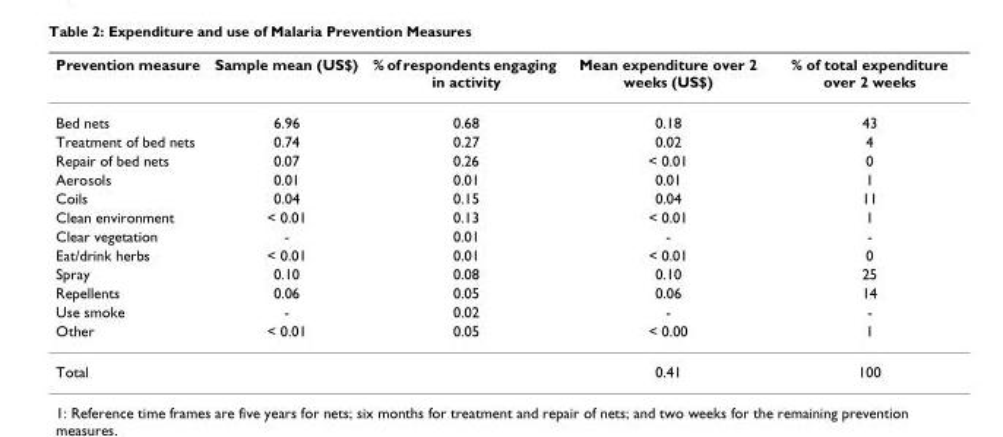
<table><thead><tr><td>Prevention measure</td><td>Sample mean (US$)</td><td>% of respondents engaging in activity</td><td>Mean expenditure over 2 weeks (US$)</td><td>% of total expenditure over 2 weeks</td></tr></thead><tbody><tr><td>Bed nets</td><td>6.96</td><td>0.68</td><td>0.18</td><td>43</td></tr><tr><td>Treatment of bed nets</td><td>0.74</td><td>0.27</td><td>0.02</td><td>4</td></tr><tr><td>Repair of bed nets</td><td>0.07</td><td>0.26</td><td>&lt; 0.01</td><td>0</td></tr><tr><td>Aerosols</td><td>0.01</td><td>0.01</td><td>0.01</td><td>1</td></tr><tr><td>Coils</td><td>0.04</td><td>0.15</td><td>0.04</td><td>11</td></tr><tr><td>Clean environment</td><td>&lt; 0.01</td><td>0.13</td><td>&lt; 0.01</td><td>1</td></tr><tr><td>Clear vegetation</td><td>-</td><td>0.01</td><td>-</td><td>-</td></tr><tr><td>Eat/drink herbs</td><td>&lt; 0.01</td><td>0.01</td><td>&lt; 0.01</td><td>0</td></tr><tr><td>Spray</td><td>0.10</td><td>0.08</td><td>0.10</td><td>25</td></tr><tr><td>Repellents</td><td>0.06</td><td>0.05</td><td>0.06</td><td>14</td></tr><tr><td>Use smoke</td><td>-</td><td>0.02</td><td>-</td><td>-</td></tr><tr><td>Other</td><td>&lt; 0.01</td><td>0.05</td><td>&lt; 0.00</td><td>1</td></tr><tr><td>Total</td><td></td><td></td><td>0.41</td><td>100</td></tr></tbody></table>